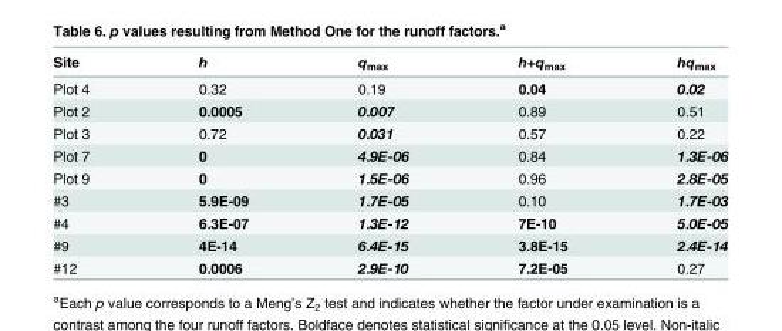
<table><thead><tr><td>Site</td><td>h</td><td>q<sub>max</sub></td><td>h+q<sub>max</sub></td><td>hq<sub>max</sub></td></tr></thead><tbody><tr><td>Plot 4</td><td>0.32</td><td>0.19</td><td>0.04</td><td>0.02</td></tr><tr><td>Plot 2</td><td>0.0005</td><td>0.007</td><td>0.89</td><td>0.51</td></tr><tr><td>Plot 3</td><td>0.72</td><td>0.031</td><td>0.57</td><td>0.22</td></tr><tr><td>Plot 7</td><td>0</td><td>4.9E-06</td><td>0.84</td><td>1.3E-06</td></tr><tr><td>Plot 9</td><td>0</td><td>1.5E-06</td><td>0.96</td><td>2.8E-05</td></tr><tr><td>#3</td><td>5.9E-09</td><td>1.7E-05</td><td>0.10</td><td>1.7E-03</td></tr><tr><td>#4</td><td>6.3E-07</td><td>1.3E-12</td><td>7E-10</td><td>5.0E-05</td></tr><tr><td>#9</td><td>4E-14</td><td>6.4E-15</td><td>3.8E-15</td><td>2.4E-14</td></tr><tr><td>#12</td><td>0.0006</td><td>2.9E-10</td><td>7.2E-05</td><td>0.27</td></tr></tbody></table>